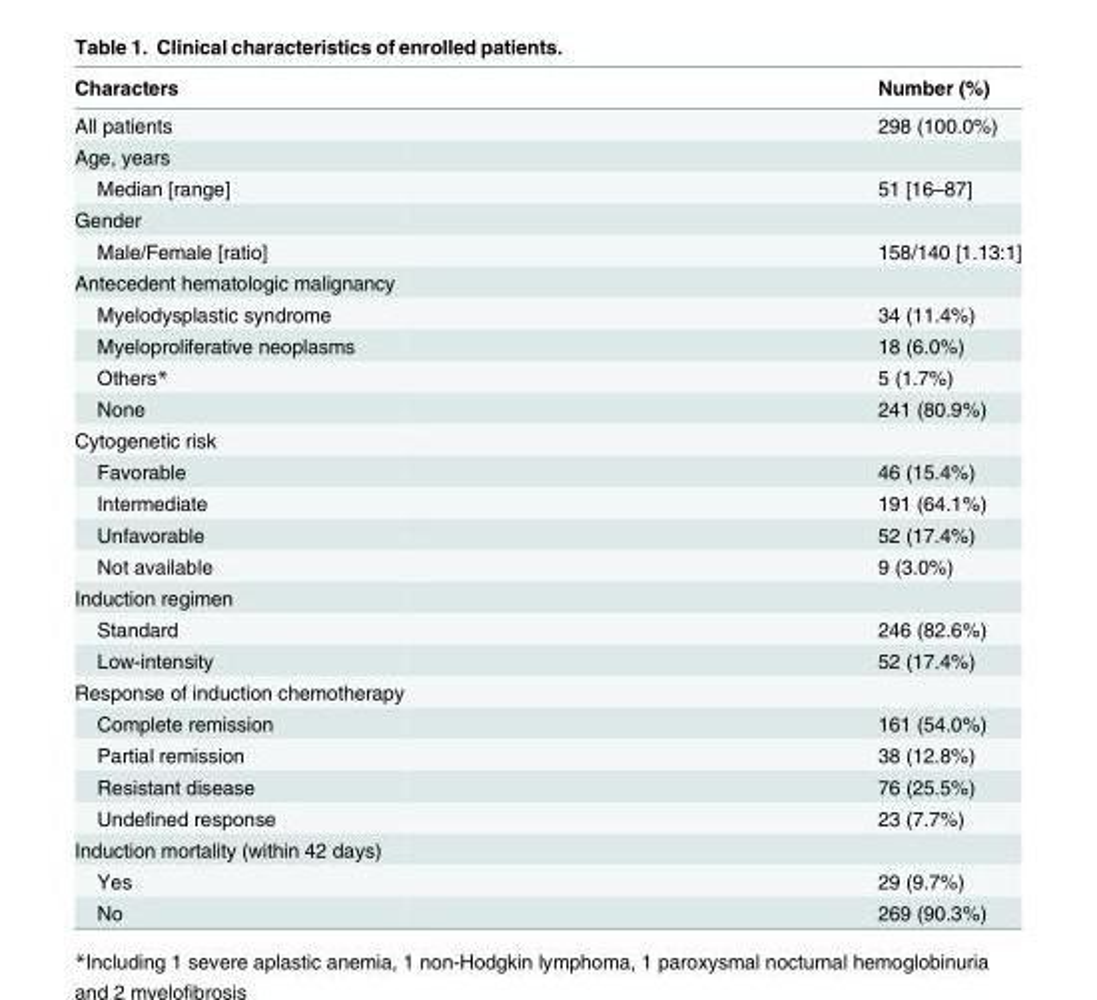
<table><thead><tr><td>Characters</td><td>Number (%)</td></tr></thead><tbody><tr><td>All patients</td><td>298 (100.0%)</td></tr><tr><td colspan="2">Age, years</td></tr><tr><td>Median [range]</td><td>51 [16–87]</td></tr><tr><td colspan="2">Gender</td></tr><tr><td>Male/Female [ratio]</td><td>158/140 [1.13:1]</td></tr><tr><td colspan="2">Antecedent hematologic malignancy</td></tr><tr><td>Myelodysplastic syndrome</td><td>34 (11.4%)</td></tr><tr><td>Myeloproliferative neoplasms</td><td>18 (6.0%)</td></tr><tr><td>Others*</td><td>5 (1.7%)</td></tr><tr><td>None</td><td>241 (80.9%)</td></tr><tr><td colspan="2">Cytogenetic risk</td></tr><tr><td>Favorable</td><td>46 (15.4%)</td></tr><tr><td>Intermediate</td><td>191 (64.1%)</td></tr><tr><td>Unfavorable</td><td>52 (17.4%)</td></tr><tr><td>Not available</td><td>9 (3.0%)</td></tr><tr><td colspan="2">Induction regimen</td></tr><tr><td>Standard</td><td>246 (82.6%)</td></tr><tr><td>Low-intensity</td><td>52 (17.4%)</td></tr><tr><td colspan="2">Response of induction chemotherapy</td></tr><tr><td>Complete remission</td><td>161 (54.0%)</td></tr><tr><td>Partial remission</td><td>38 (12.8%)</td></tr><tr><td>Resistant disease</td><td>76 (25.5%)</td></tr><tr><td>Undefined response</td><td>23 (7.7%)</td></tr><tr><td colspan="2">Induction mortality (within 42 days)</td></tr><tr><td>Yes</td><td>29 (9.7%)</td></tr><tr><td>No</td><td>269 (90.3%)</td></tr></tbody></table>